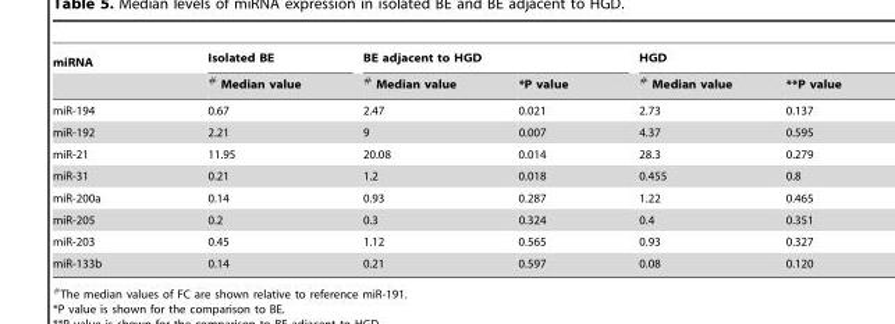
<table><thead><tr><td rowspan="2">miRNA</td><td rowspan="2">Isolated BE # Median value</td><td colspan="2">BE adjacent to HGD</td><td colspan="2">HGD</td></tr><tr><td># Median value</td><td>*P value</td><td># Median value</td><td>**P value</td></tr></thead><tbody><tr><td>miR-194</td><td>0.67</td><td>2.47</td><td>0.021</td><td>2.73</td><td>0.137</td></tr><tr><td>miR-192</td><td>2.21</td><td>9</td><td>0.007</td><td>4.37</td><td>0.595</td></tr><tr><td>miR-21</td><td>11.95</td><td>20.08</td><td>0.014</td><td>28.3</td><td>0.279</td></tr><tr><td>miR-31</td><td>0.21</td><td>1.2</td><td>0.018</td><td>0.455</td><td>0.8</td></tr><tr><td>miR-200a</td><td>0.14</td><td>0.93</td><td>0.287</td><td>1.22</td><td>0.465</td></tr><tr><td>miR-205</td><td>0.2</td><td>0.3</td><td>0.324</td><td>0.4</td><td>0.351</td></tr><tr><td>miR-203</td><td>0.45</td><td>1.12</td><td>0.565</td><td>0.93</td><td>0.327</td></tr><tr><td>miR-133b</td><td>0.14</td><td>0.21</td><td>0.597</td><td>0.08</td><td>0.120</td></tr></tbody></table>